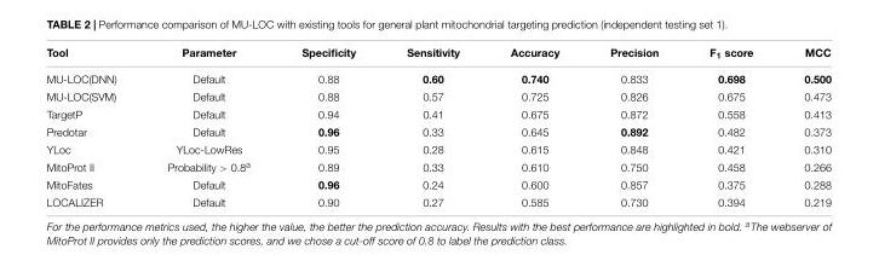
<table><thead><tr><td>Tool</td><td>Parameter</td><td>Specificity</td><td>Sensitivity</td><td>Accuracy</td><td>Precision</td><td>F<sub>1</sub> score</td><td>MCC</td></tr></thead><tbody><tr><td>MU-LOC(DNN)</td><td>Default</td><td>0.88</td><td>0.60</td><td>0.740</td><td>0.833</td><td>0.698</td><td>0.500</td></tr><tr><td>MU-LOC(SVM)</td><td>Default</td><td>0.88</td><td>0.57</td><td>0.725</td><td>0.826</td><td>0.675</td><td>0.473</td></tr><tr><td>TargetP</td><td>Default</td><td>0.94</td><td>0.41</td><td>0.675</td><td>0.872</td><td>0.558</td><td>0.413</td></tr><tr><td>Predotar</td><td>Default</td><td>0.96</td><td>0.33</td><td>0.645</td><td>0.892</td><td>0.482</td><td>0.373</td></tr><tr><td>YLoc</td><td>YLoc-LowRes</td><td>0.95</td><td>0.28</td><td>0.615</td><td>0.848</td><td>0.421</td><td>0.310</td></tr><tr><td>MitoProt II</td><td>Probability &gt; 0.8<sup>a</sup></td><td>0.89</td><td>0.33</td><td>0.610</td><td>0.750</td><td>0.458</td><td>0.266</td></tr><tr><td>MitoFates</td><td>Default</td><td>0.96</td><td>0.24</td><td>0.600</td><td>0.857</td><td>0.375</td><td>0.288</td></tr><tr><td>LOCALIZER</td><td>Default</td><td>0.90</td><td>0.27</td><td>0.585</td><td>0.730</td><td>0.394</td><td>0.219</td></tr></tbody></table>